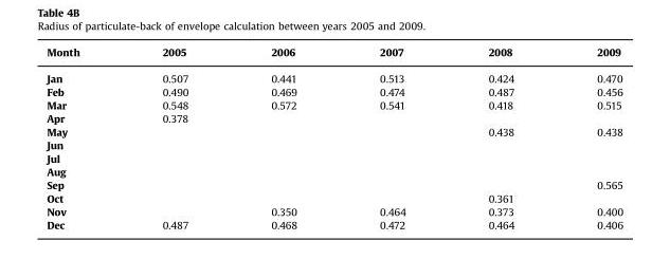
<table><thead><tr><td>Month</td><td>2005</td><td>2006</td><td>2007</td><td>2008</td><td>2009</td></tr></thead><tbody><tr><td>Jan</td><td>0.507</td><td>0.441</td><td>0.513</td><td>0.424</td><td>0.470</td></tr><tr><td>Feb</td><td>0.490</td><td>0.469</td><td>0.474</td><td>0.487</td><td>0.456</td></tr><tr><td>Mar</td><td>0.548</td><td>0.572</td><td>0.541</td><td>0.418</td><td>0.515</td></tr><tr><td>Apr</td><td>0.378</td><td></td><td></td><td></td><td></td></tr><tr><td>May</td><td></td><td></td><td></td><td>0.438</td><td>0.438</td></tr><tr><td colspan="6">Jun</td></tr><tr><td colspan="6">Jul</td></tr><tr><td colspan="6">Aug</td></tr><tr><td>Sep</td><td></td><td></td><td></td><td></td><td>0.565</td></tr><tr><td>Oct</td><td></td><td></td><td></td><td>0.361</td><td></td></tr><tr><td>Nov</td><td></td><td>0.350</td><td>0.464</td><td>0.373</td><td>0.400</td></tr><tr><td>Dec</td><td>0.487</td><td>0.468</td><td>0.472</td><td>0.464</td><td>0.406</td></tr></tbody></table>